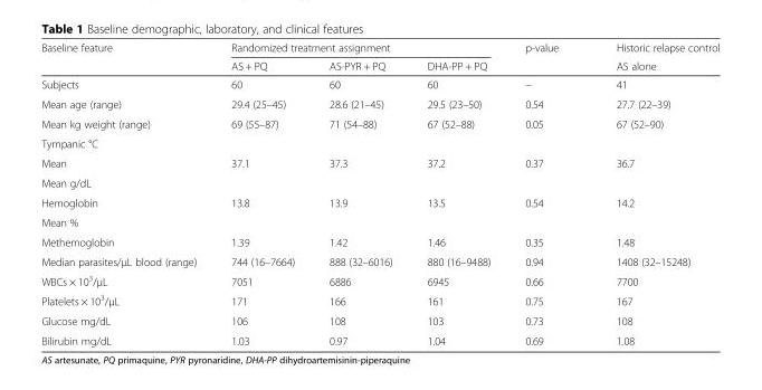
<table><thead><tr><td rowspan="2">Baseline feature</td><td colspan="3">Randomized treatment assignment</td><td rowspan="2">p-value</td><td rowspan="2">Historic relapse control AS alone</td></tr><tr><td>AS + PQ</td><td>AS-PYR + PQ</td><td>DHA-PP + PQ</td></tr></thead><tbody><tr><td>Subjects</td><td>60</td><td>60</td><td>60</td><td>–</td><td>41</td></tr><tr><td>Mean age (range)</td><td>29.4 (25–45)</td><td>28.6 (21–45)</td><td>29.5 (23–50)</td><td>0.54</td><td>27.7 (22–39)</td></tr><tr><td>Mean kg weight (range)</td><td>69 (55–87)</td><td>71 (54–88)</td><td>67 (52–88)</td><td>0.05</td><td>67 (52–90)</td></tr><tr><td colspan="6">Tympanic °C</td></tr><tr><td>Mean</td><td>37.1</td><td>37.3</td><td>37.2</td><td>0.37</td><td>36.7</td></tr><tr><td colspan="6">Mean g/dL</td></tr><tr><td>Hemoglobin</td><td>13.8</td><td>13.9</td><td>13.5</td><td>0.54</td><td>14.2</td></tr><tr><td colspan="6">Mean %</td></tr><tr><td>Methemoglobin</td><td>1.39</td><td>1.42</td><td>1.46</td><td>0.35</td><td>1.48</td></tr><tr><td>Median parasites/μL blood (range)</td><td>744 (16–7664)</td><td>888 (32–6016)</td><td>880 (16–9488)</td><td>0.94</td><td>1408 (32–15248)</td></tr><tr><td>WBCs × 10<sup>3</sup>/μL</td><td>7051</td><td>6886</td><td>6945</td><td>0.66</td><td>7700</td></tr><tr><td>Platelets × 10<sup>3</sup>/μL</td><td>171</td><td>166</td><td>161</td><td>0.75</td><td>167</td></tr><tr><td>Glucose mg/dL</td><td>106</td><td>108</td><td>103</td><td>0.73</td><td>108</td></tr><tr><td>Bilirubin mg/dL</td><td>1.03</td><td>0.97</td><td>1.04</td><td>0.69</td><td>1.08</td></tr></tbody></table>